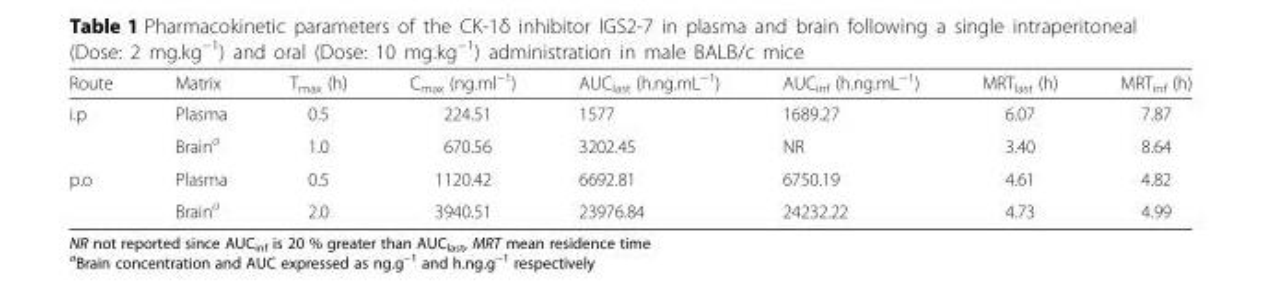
<table><thead><tr><td>Route</td><td>Matrix</td><td>T<sub>max</sub> (h)</td><td>C<sub>max</sub> (ng.ml<sup>−1</sup>)</td><td>AUC<sub>last</sub> (h.ng.mL<sup>−1</sup>)</td><td>AUC<sub>inf</sub> (h.ng.mL<sup>−1</sup>)</td><td>MRT<sub>last</sub> (h)</td><td>MRT<sub>inf</sub> (h)</td></tr></thead><tbody><tr><td rowspan="2">i.p</td><td>Plasma</td><td>0.5</td><td>224.51</td><td>1577</td><td>1689.27</td><td>6.07</td><td>7.87</td></tr><tr><td>Brain<sup>a</sup></td><td>1.0</td><td>670.56</td><td>3202.45</td><td>NR</td><td>3.40</td><td>8.64</td></tr><tr><td rowspan="2">p.o</td><td>Plasma</td><td>0.5</td><td>1120.42</td><td>6692.81</td><td>6750.19</td><td>4.61</td><td>4.82</td></tr><tr><td>Brain<sup>a</sup></td><td>2.0</td><td>3940.51</td><td>23976.84</td><td>24232.22</td><td>4.73</td><td>4.99</td></tr></tbody></table>